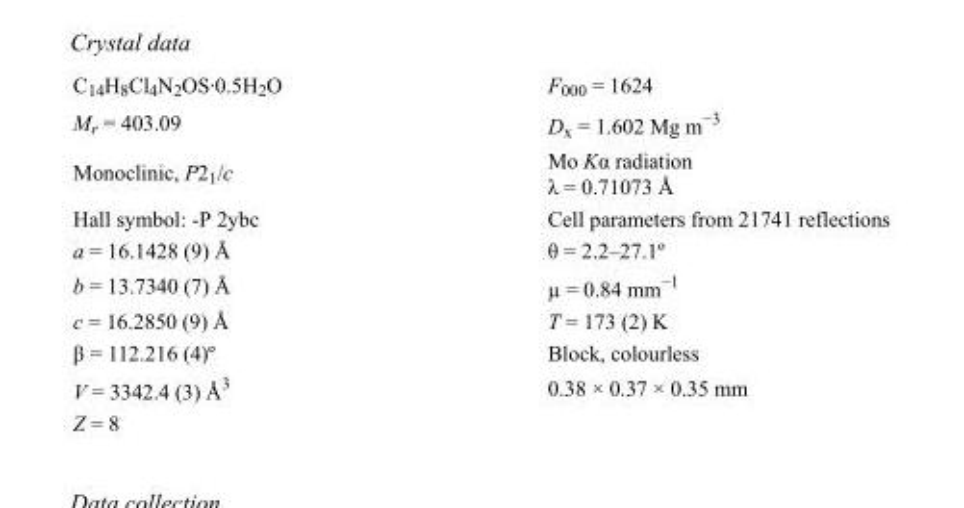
<table><tbody><tr><td>C<sub>14</sub>H<sub>8</sub>Cl<sub>4</sub>N<sub>2</sub>OS·0.5H<sub>2</sub>O</td><td>F000 = 1624</td></tr><tr><td>M<sub>r</sub> = 403.09</td><td>D<sub>x</sub> = 1.602 Mg m<sup>−3</sup></td></tr><tr><td>Monoclinic, P2<sub>1</sub>/c</td><td>Mo Kα radiation λ = 0.71073 Å</td></tr><tr><td>Hall symbol: -P 2ybc</td><td>Cell parameters from 21741 reflections</td></tr><tr><td>a = 16.1428 (9) Å</td><td>θ = 2.2–27.1º</td></tr><tr><td>b = 13.7340 (7) Å</td><td>µ = 0.84 mm<sup>−1</sup></td></tr><tr><td>c = 16.2850 (9) Å</td><td>T = 173 (2) K</td></tr><tr><td>β = 112.216 (4)º</td><td>Block, colourless</td></tr><tr><td>V = 3342.4 (3) Å<sup>3</sup></td><td>0.38 × 0.37 × 0.35 mm</td></tr><tr><td>Z = 8</td><td></td></tr></tbody></table>